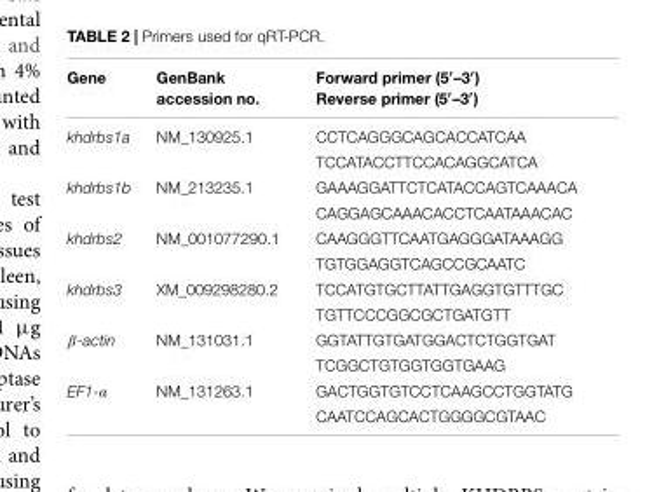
<table><thead><tr><td>Gene</td><td>GenBank accession no.</td><td>Forward primer (5′–3′) Reverse primer (5′–3′)</td></tr></thead><tbody><tr><td rowspan="2">khdrbs1a</td><td>NM_130925.1</td><td>CCTCAGGGCAGCACCATCAA</td></tr><tr><td></td><td>TCCATACCTTCCACAGGCATCA</td></tr><tr><td rowspan="2">khdrbs1b</td><td>NM_213235.1</td><td>GAAAGGATTCTCATACCAGTCAAACA</td></tr><tr><td></td><td>CAGGAGCAAACACCTCAATAAACAC</td></tr><tr><td rowspan="2">khdrbs2</td><td>NM_001077290.1</td><td>CAAGGGTTCAATGAGGGATAAAGG</td></tr><tr><td></td><td>TGTGGAGGTCAGCCGCAATC</td></tr><tr><td rowspan="2">khdrbs3</td><td>XM_009298280.2</td><td>TCCATGTGCTTATTGAGGTGTTTGC</td></tr><tr><td></td><td>TGTTCCCGGCGCTGATGTT</td></tr><tr><td rowspan="2">β-actin</td><td>NM_131031.1</td><td>GGTATTGTGATGGACTCTGGTGAT</td></tr><tr><td></td><td>TCGGCTGTGGTGGTGAAG</td></tr><tr><td rowspan="2">EF1-α</td><td>NM_131263.1</td><td>GACTGGTGTCCTCAAGCCTGGTATG</td></tr><tr><td></td><td>CAATCCAGCACTGGGGCGTAAC</td></tr></tbody></table>